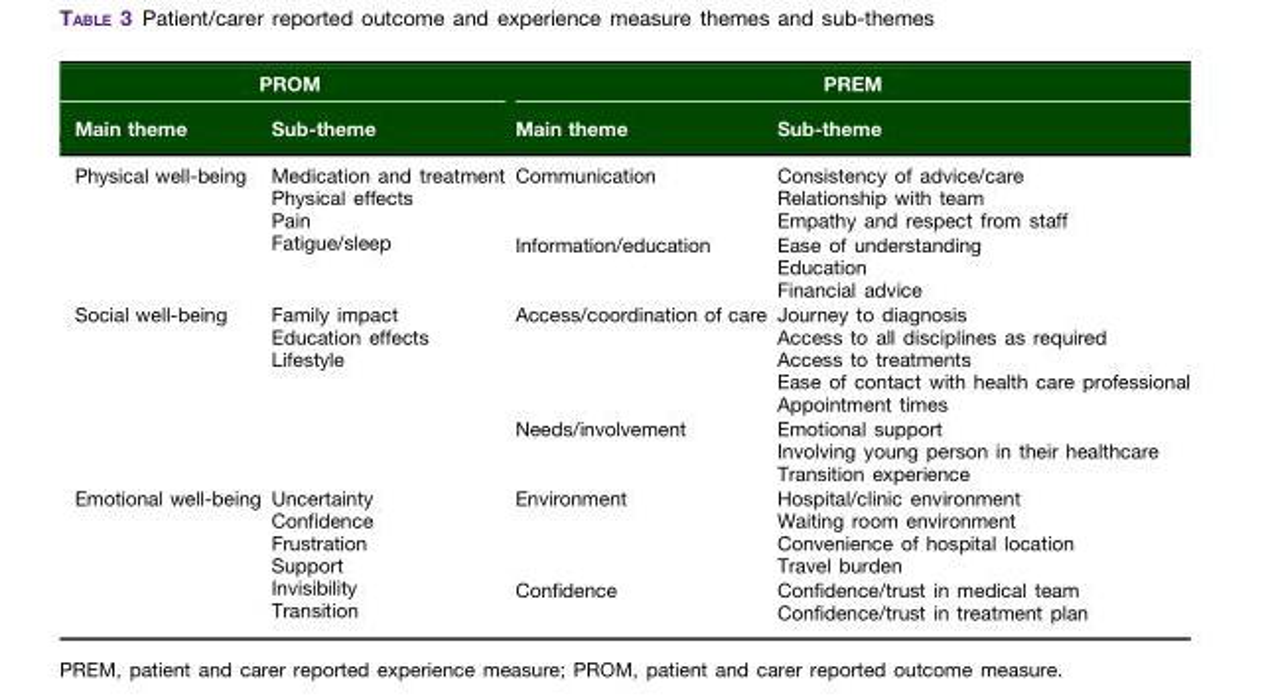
<table><thead><tr><td colspan="2">PROM</td><td colspan="2">PREM</td></tr><tr><td>Main theme</td><td>Sub-theme</td><td>Main theme</td><td>Sub-theme</td></tr></thead><tbody><tr><td rowspan="2">Physical well-being</td><td rowspan="2">Medication and treatment Physical effects Pain Fatigue/sleep</td><td>Communication</td><td>Consistency of advice/care Relationship with team Empathy and respect from staff</td></tr><tr><td>Information/education</td><td>Ease of understanding Education Financial advice</td></tr><tr><td rowspan="2">Social well-being</td><td rowspan="2">Family impact Education effects Lifestyle</td><td>Access/coordination of care</td><td>Journey to diagnosis Access to all disciplines as required Access to treatments Ease of contact with health care professional Appointment times</td></tr><tr><td>Needs/involvement</td><td>Emotional support Involving young person in their healthcare Transition experience</td></tr><tr><td rowspan="2">Emotional well-being</td><td rowspan="2">Uncertainty Confidence Frustration Support Invisibility Transition</td><td>Environment</td><td>Hospital/clinic environment Waiting room environment Convenience of hospital location Travel burden</td></tr><tr><td>Confidence</td><td>Confidence/trust in medical team Confidence/trust in treatment plan</td></tr></tbody></table>